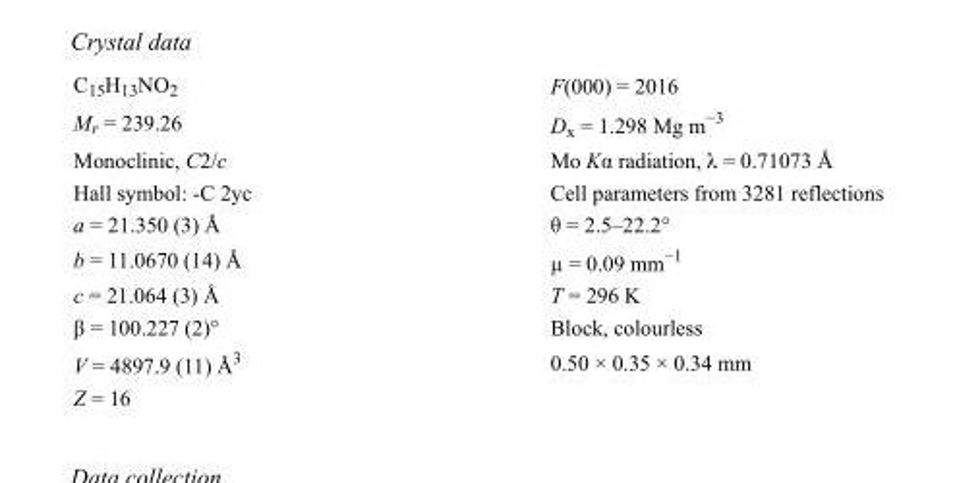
<table><tbody><tr><td>C<sub>15</sub>H<sub>13</sub>NO<sub>2</sub></td><td>F(000) = 2016</td></tr><tr><td>M<sub>r</sub> = 239.26</td><td>D<sub>x</sub> = 1.298 Mg m<sup>−3</sup></td></tr><tr><td>Monoclinic, C2/c</td><td>Mo Kα radiation, λ = 0.71073 Å</td></tr><tr><td>Hall symbol: -C 2yc</td><td>Cell parameters from 3281 reflections</td></tr><tr><td>a = 21.350 (3) Å</td><td>θ = 2.5–22.2°</td></tr><tr><td>b = 11.0670 (14) Å</td><td>µ = 0.09 mm<sup>−1</sup></td></tr><tr><td>c = 21.064 (3) Å</td><td>T = 296 K</td></tr><tr><td>β = 100.227 (2)°</td><td>Block, colourless</td></tr><tr><td>V = 4897.9 (11) Å<sup>3</sup></td><td>0.50 × 0.35 × 0.34 mm</td></tr><tr><td>Z = 16</td><td></td></tr></tbody></table>